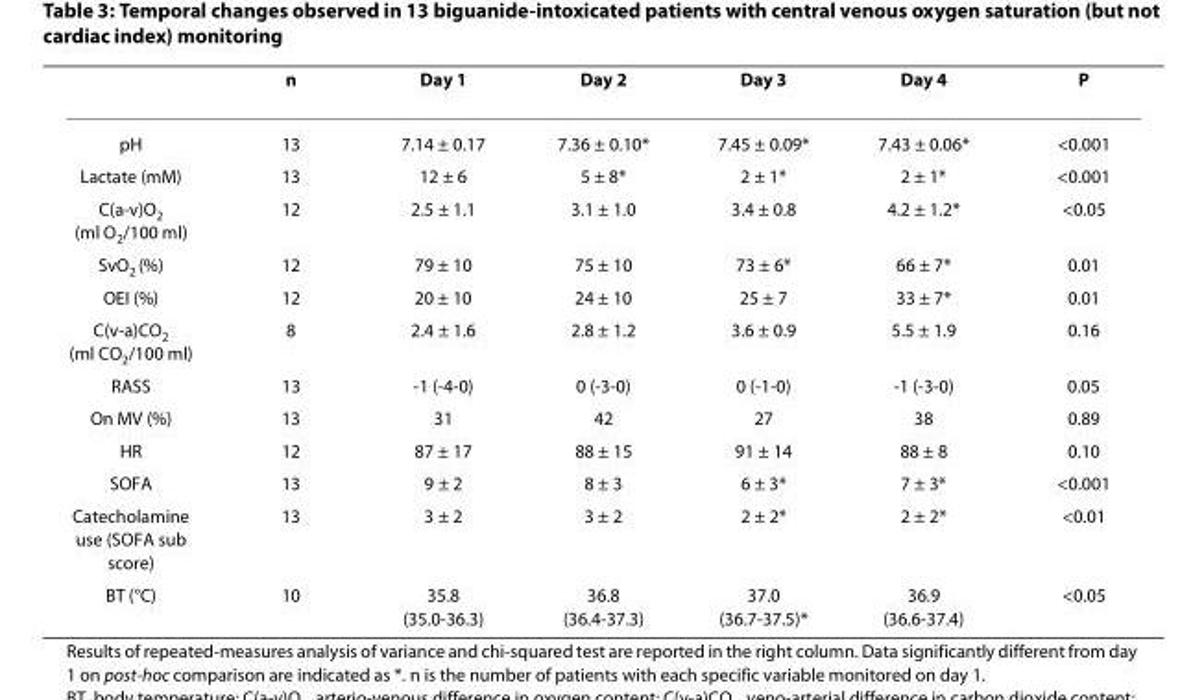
<table><thead><tr><td></td><td>n</td><td>Day 1</td><td>Day 2</td><td>Day 3</td><td>Day 4</td><td>P</td></tr></thead><tbody><tr><td>pH</td><td>13</td><td>7.14 ± 0.17</td><td>7.36 ± 0.10*</td><td>7.45 ± 0.09*</td><td>7.43 ± 0.06*</td><td>&lt;0.001</td></tr><tr><td>Lactate (mM)</td><td>13</td><td>12 ± 6</td><td>5 ± 8*</td><td>2 ± 1*</td><td>2 ± 1*</td><td>&lt;0.001</td></tr><tr><td>C(a-v)O<sub>2</sub> (ml O<sub>2</sub>/100 ml)</td><td>12</td><td>2.5 ± 1.1</td><td>3.1 ± 1.0</td><td>3.4 ± 0.8</td><td>4.2 ± 1.2*</td><td>&lt;0.05</td></tr><tr><td>SvO<sub>2</sub> (%)</td><td>12</td><td>79 ± 10</td><td>75 ± 10</td><td>73 ± 6*</td><td>66 ± 7*</td><td>0.01</td></tr><tr><td>OEI (%)</td><td>12</td><td>20 ± 10</td><td>24 ± 10</td><td>25 ± 7</td><td>33 ± 7*</td><td>0.01</td></tr><tr><td>C(v-a)CO<sub>2</sub> (ml CO<sub>2</sub>/100 ml)</td><td>8</td><td>2.4 ± 1.6</td><td>2.8 ± 1.2</td><td>3.6 ± 0.9</td><td>5.5 ± 1.9</td><td>0.16</td></tr><tr><td>RASS</td><td>13</td><td>-1 (-4-0)</td><td>0 (-3-0)</td><td>0 (-1-0)</td><td>-1 (-3-0)</td><td>0.05</td></tr><tr><td>On MV (%)</td><td>13</td><td>31</td><td>42</td><td>27</td><td>38</td><td>0.89</td></tr><tr><td>HR</td><td>12</td><td>87 ± 17</td><td>88 ± 15</td><td>91 ± 14</td><td>88 ± 8</td><td>0.10</td></tr><tr><td>SOFA</td><td>13</td><td>9 ± 2</td><td>8 ± 3</td><td>6 ± 3*</td><td>7 ± 3*</td><td>&lt;0.001</td></tr><tr><td>Catecholamine use (SOFA sub score)</td><td>13</td><td>3 ± 2</td><td>3 ± 2</td><td>2 ± 2*</td><td>2 ± 2*</td><td>&lt;0.01</td></tr><tr><td>BT (°C)</td><td>10</td><td>35.8 (35.0-36.3)</td><td>36.8 (36.4-37.3)</td><td>37.0 (36.7-37.5)*</td><td>36.9 (36.6-37.4)</td><td>&lt;0.05</td></tr></tbody></table>